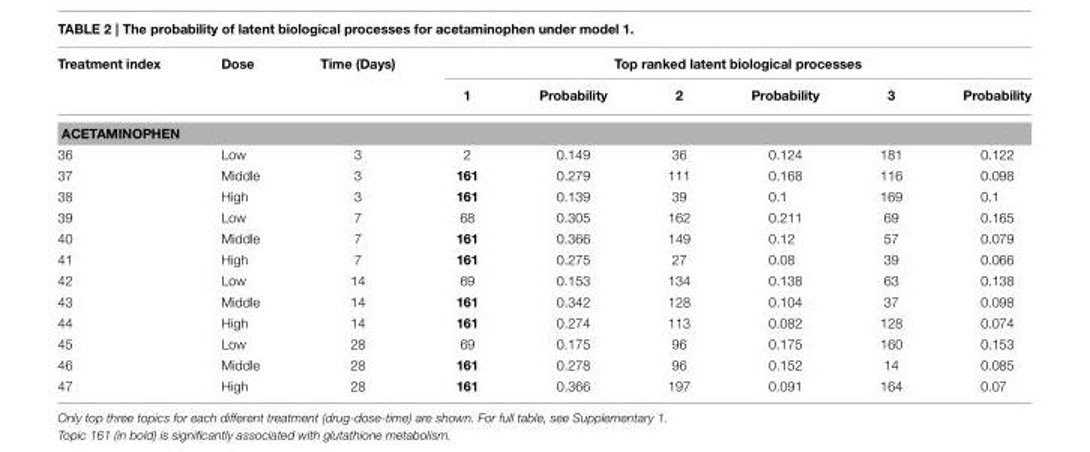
<table><thead><tr><td rowspan="2">Treatment index</td><td rowspan="2">Dose</td><td rowspan="2">Time (Days)</td><td colspan="6">Top ranked latent biological processes</td></tr><tr><td>1</td><td>Probability</td><td>2</td><td>Probability</td><td>3</td><td>Probability</td></tr></thead><tbody><tr><td colspan="9">ACETAMINOPHEN</td></tr><tr><td>36</td><td>Low</td><td>3</td><td>2</td><td>0.149</td><td>36</td><td>0.124</td><td>181</td><td>0.122</td></tr><tr><td>37</td><td>Middle</td><td>3</td><td>161</td><td>0.279</td><td>111</td><td>0.168</td><td>116</td><td>0.098</td></tr><tr><td>38</td><td>High</td><td>3</td><td>161</td><td>0.139</td><td>39</td><td>0.1</td><td>169</td><td>0.1</td></tr><tr><td>39</td><td>Low</td><td>7</td><td>68</td><td>0.305</td><td>162</td><td>0.211</td><td>69</td><td>0.165</td></tr><tr><td>40</td><td>Middle</td><td>7</td><td>161</td><td>0.366</td><td>149</td><td>0.12</td><td>57</td><td>0.079</td></tr><tr><td>41</td><td>High</td><td>7</td><td>161</td><td>0.275</td><td>27</td><td>0.08</td><td>39</td><td>0.066</td></tr><tr><td>42</td><td>Low</td><td>14</td><td>69</td><td>0.153</td><td>134</td><td>0.138</td><td>63</td><td>0.138</td></tr><tr><td>43</td><td>Middle</td><td>14</td><td>161</td><td>0.342</td><td>128</td><td>0.104</td><td>37</td><td>0.098</td></tr><tr><td>44</td><td>High</td><td>14</td><td>161</td><td>0.274</td><td>113</td><td>0.082</td><td>128</td><td>0.074</td></tr><tr><td>45</td><td>Low</td><td>28</td><td>69</td><td>0.175</td><td>96</td><td>0.175</td><td>160</td><td>0.153</td></tr><tr><td>46</td><td>Middle</td><td>28</td><td>161</td><td>0.278</td><td>96</td><td>0.152</td><td>14</td><td>0.085</td></tr><tr><td>47</td><td>High</td><td>28</td><td>161</td><td>0.366</td><td>197</td><td>0.091</td><td>164</td><td>0.07</td></tr></tbody></table>